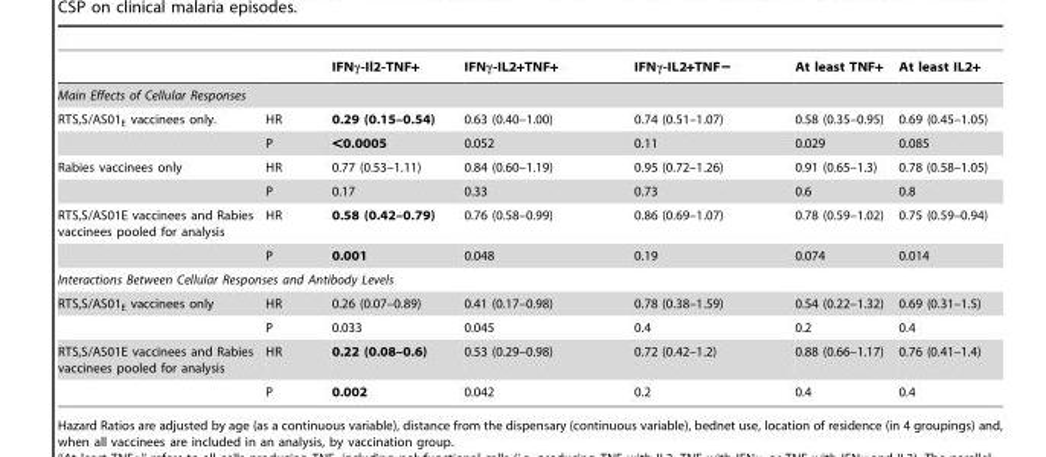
<table><thead><tr><td></td><td></td><td>IFNγ-Il2-TNF+</td><td>IFNγ-IL2+TNF+</td><td>IFNγ-IL2+TNF−</td><td>At least TNF+</td><td>At least IL2+</td></tr></thead><tbody><tr><td colspan="7">Main Effects of Cellular Responses</td></tr><tr><td rowspan="2">RTS,S/AS01<sub>E</sub> vaccinees only.</td><td>HR</td><td>0.29 (0.15–0.54)</td><td>0.63 (0.40–1.00)</td><td>0.74 (0.51–1.07)</td><td>0.58 (0.35–0.95)</td><td>0.69 (0.45–1.05)</td></tr><tr><td>P</td><td>&lt;0.0005</td><td>0.052</td><td>0.11</td><td>0.029</td><td>0.085</td></tr><tr><td rowspan="2">Rabies vaccinees only</td><td>HR</td><td>0.77 (0.53–1.11)</td><td>0.84 (0.60–1.19)</td><td>0.95 (0.72–1.26)</td><td>0.91 (0.65–1.3)</td><td>0.78 (0.58–1.05)</td></tr><tr><td>P</td><td>0.17</td><td>0.33</td><td>0.73</td><td>0.6</td><td>0.8</td></tr><tr><td rowspan="2">RTS,S/AS01E vaccinees and Rabies vaccinees pooled for analysis</td><td>HR</td><td>0.58 (0.42–0.79)</td><td>0.76 (0.58–0.99)</td><td>0.86 (0.69–1.07)</td><td>0.78 (0.59–1.02)</td><td>0.75 (0.59–0.94)</td></tr><tr><td>P</td><td>0.001</td><td>0.048</td><td>0.19</td><td>0.074</td><td>0.014</td></tr><tr><td colspan="7">Interactions Between Cellular Responses and Antibody Levels</td></tr><tr><td rowspan="2">RTS,S/AS01<sub>E</sub> vaccinees only</td><td>HR</td><td>0.26 (0.07–0.89)</td><td>0.41 (0.17–0.98)</td><td>0.78 (0.38–1.59)</td><td>0.54 (0.22–1.32)</td><td>0.69 (0.31–1.5)</td></tr><tr><td>P</td><td>0.033</td><td>0.045</td><td>0.4</td><td>0.2</td><td>0.4</td></tr><tr><td rowspan="2">RTS,S/AS01E vaccinees and Rabies vaccinees pooled for analysis</td><td>HR</td><td>0.22 (0.08–0.6)</td><td>0.53 (0.29–0.98)</td><td>0.72 (0.42–1.2)</td><td>0.88 (0.66–1.17)</td><td>0.76 (0.41–1.4)</td></tr><tr><td>P</td><td>0.002</td><td>0.042</td><td>0.2</td><td>0.4</td><td>0.4</td></tr></tbody></table>